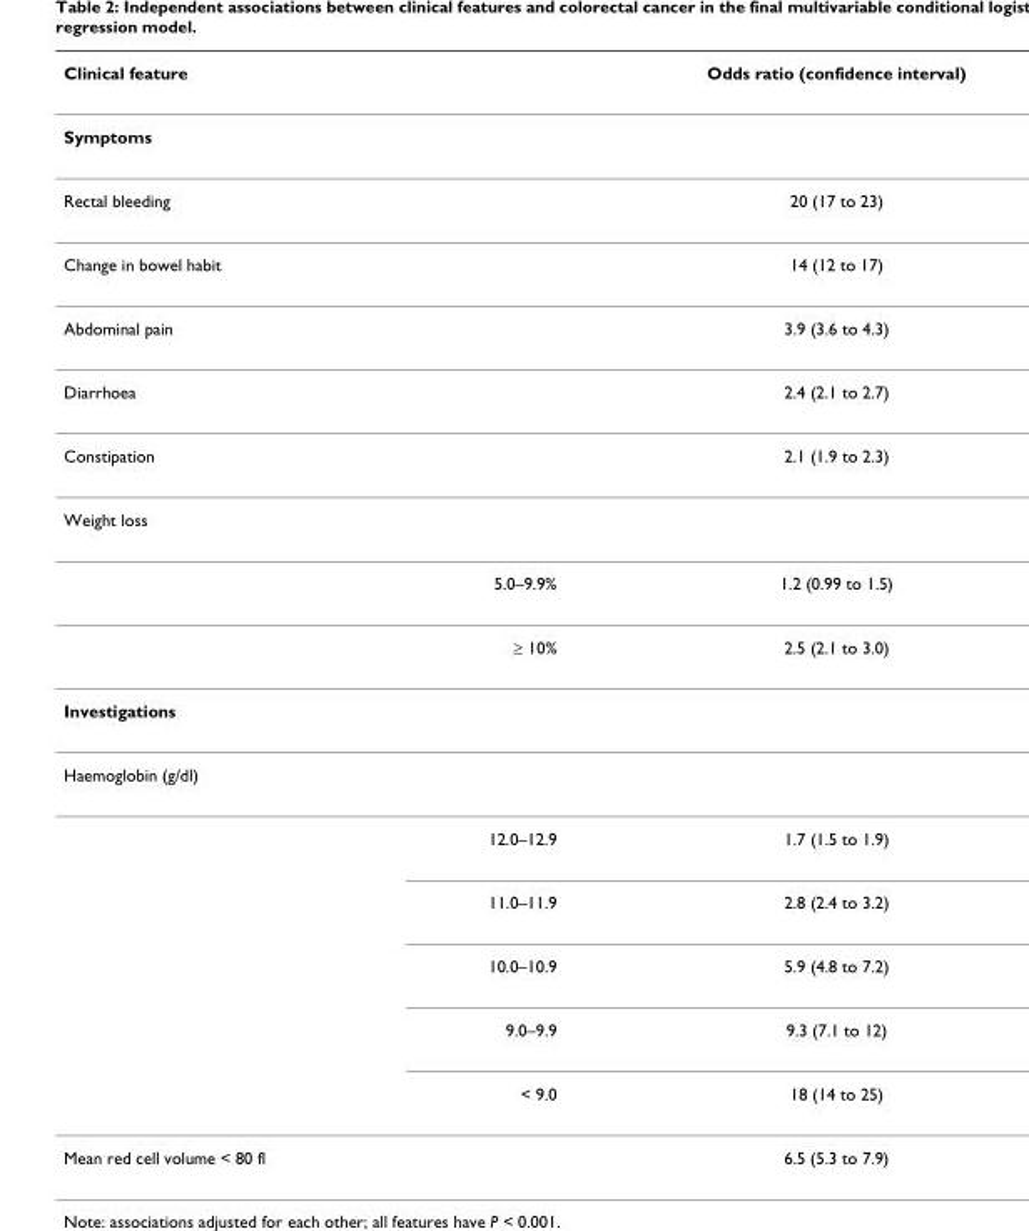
<table><thead><tr><td>Clinical feature</td><td></td><td>Odds ratio (confidence interval)</td></tr></thead><tbody><tr><td colspan="3">Symptoms</td></tr><tr><td>Rectal bleeding</td><td></td><td>20 (17 to 23)</td></tr><tr><td>Change in bowel habit</td><td></td><td>14 (12 to 17)</td></tr><tr><td>Abdominal pain</td><td></td><td>3.9 (3.6 to 4.3)</td></tr><tr><td>Diarrhoea</td><td></td><td>2.4 (2.1 to 2.7)</td></tr><tr><td>Constipation</td><td></td><td>2.1 (1.9 to 2.3)</td></tr><tr><td colspan="3">Weight loss</td></tr><tr><td></td><td>5.0–9.9%</td><td>1.2 (0.99 to 1.5)</td></tr><tr><td></td><td>≥ 10%</td><td>2.5 (2.1 to 3.0)</td></tr><tr><td colspan="3">Investigations</td></tr><tr><td colspan="3">Haemoglobin (g/dl)</td></tr><tr><td></td><td>12.0–12.9</td><td>1.7 (1.5 to 1.9)</td></tr><tr><td></td><td>11.0–11.9</td><td>2.8 (2.4 to 3.2)</td></tr><tr><td></td><td>10.0–10.9</td><td>5.9 (4.8 to 7.2)</td></tr><tr><td></td><td>9.0–9.9</td><td>9.3 (7.1 to 12)</td></tr><tr><td></td><td>&lt; 9.0</td><td>18 (14 to 25)</td></tr><tr><td colspan="2">Mean red cell volume &lt; 80 fl</td><td>6.5 (5.3 to 7.9)</td></tr></tbody></table>